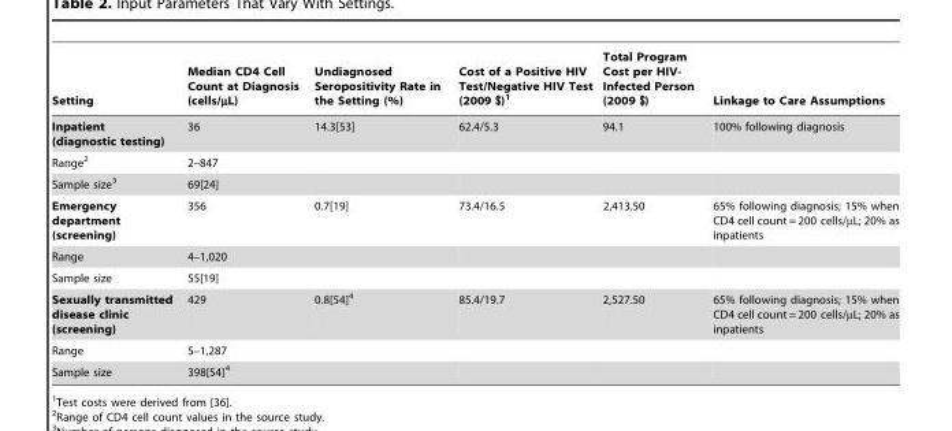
<table><thead><tr><td>Setting</td><td>Median CD4 Cell Count at Diagnosis (cells/µL)</td><td>Undiagnosed Seropositivity Rate in the Setting (%)</td><td>Cost of a Positive HIV Test/Negative HIV Test (2009 $)<sup>1</sup></td><td>Total Program Cost per HIV- Infected Person (2009 $)</td><td>Linkage to Care Assumptions</td></tr></thead><tbody><tr><td>Inpatient (diagnostic testing)</td><td>36</td><td>14.3[53]</td><td>62.4/5.3</td><td>94.1</td><td>100% following diagnosis</td></tr><tr><td>Range<sup>2</sup></td><td>2–847</td><td></td><td></td><td></td><td></td></tr><tr><td>Sample size<sup>3</sup></td><td>69[24]</td><td></td><td></td><td></td><td></td></tr><tr><td>Emergency department (screening)</td><td>356</td><td>0.7[19]</td><td>73.4/16.5</td><td>2,413.50</td><td>65% following diagnosis; 15% when CD4 cell count = 200 cells/µL; 20% as inpatients</td></tr><tr><td>Range</td><td>4–1,020</td><td></td><td></td><td></td><td></td></tr><tr><td>Sample size</td><td>55[19]</td><td></td><td></td><td></td><td></td></tr><tr><td>Sexually transmitted disease clinic (screening)</td><td>429</td><td>0.8[54]4</td><td>85.4/19.7</td><td>2,527.50</td><td>65% following diagnosis; 15% when CD4 cell count = 200 cells/µL; 20% as inpatients</td></tr><tr><td>Range</td><td>5–1,287</td><td></td><td></td><td></td><td></td></tr><tr><td>Sample size</td><td>398[54]4</td><td></td><td></td><td></td><td></td></tr></tbody></table>